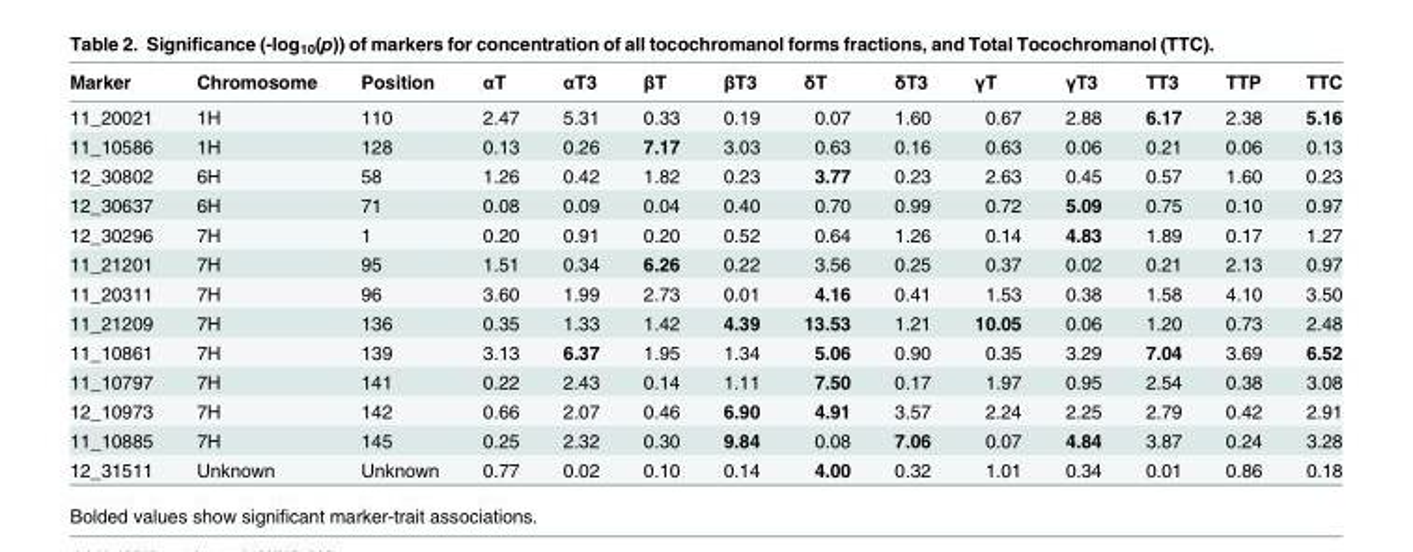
<table><thead><tr><td>Marker</td><td>Chromosome</td><td>Position</td><td>αT</td><td>αT3</td><td>βT</td><td>βT3</td><td>δT</td><td>δT3</td><td>γT</td><td>γT3</td><td>TT3</td><td>TTP</td><td>TTC</td></tr></thead><tbody><tr><td>11_20021</td><td>1H</td><td>110</td><td>2.47</td><td>5.31</td><td>0.33</td><td>0.19</td><td>0.07</td><td>1.60</td><td>0.67</td><td>2.88</td><td>6.17</td><td>2.38</td><td>5.16</td></tr><tr><td>11_10586</td><td>1H</td><td>128</td><td>0.13</td><td>0.26</td><td>7.17</td><td>3.03</td><td>0.63</td><td>0.16</td><td>0.63</td><td>0.06</td><td>0.21</td><td>0.06</td><td>0.13</td></tr><tr><td>12_30802</td><td>6H</td><td>58</td><td>1.26</td><td>0.42</td><td>1.82</td><td>0.23</td><td>3.77</td><td>0.23</td><td>2.63</td><td>0.45</td><td>0.57</td><td>1.60</td><td>0.23</td></tr><tr><td>12_30637</td><td>6H</td><td>71</td><td>0.08</td><td>0.09</td><td>0.04</td><td>0.40</td><td>0.70</td><td>0.99</td><td>0.72</td><td>5.09</td><td>0.75</td><td>0.10</td><td>0.97</td></tr><tr><td>12_30296</td><td>7H</td><td>1</td><td>0.20</td><td>0.91</td><td>0.20</td><td>0.52</td><td>0.64</td><td>1.26</td><td>0.14</td><td>4.83</td><td>1.89</td><td>0.17</td><td>1.27</td></tr><tr><td>11_21201</td><td>7H</td><td>95</td><td>1.51</td><td>0.34</td><td>6.26</td><td>0.22</td><td>3.56</td><td>0.25</td><td>0.37</td><td>0.02</td><td>0.21</td><td>2.13</td><td>0.97</td></tr><tr><td>11_20311</td><td>7H</td><td>96</td><td>3.60</td><td>1.99</td><td>2.73</td><td>0.01</td><td>4.16</td><td>0.41</td><td>1.53</td><td>0.38</td><td>1.58</td><td>4.10</td><td>3.50</td></tr><tr><td>11_21209</td><td>7H</td><td>136</td><td>0.35</td><td>1.33</td><td>1.42</td><td>4.39</td><td>13.53</td><td>1.21</td><td>10.05</td><td>0.06</td><td>1.20</td><td>0.73</td><td>2.48</td></tr><tr><td>11_10861</td><td>7H</td><td>139</td><td>3.13</td><td>6.37</td><td>1.95</td><td>1.34</td><td>5.06</td><td>0.90</td><td>0.35</td><td>3.29</td><td>7.04</td><td>3.69</td><td>6.52</td></tr><tr><td>11_10797</td><td>7H</td><td>141</td><td>0.22</td><td>2.43</td><td>0.14</td><td>1.11</td><td>7.50</td><td>0.17</td><td>1.97</td><td>0.95</td><td>2.54</td><td>0.38</td><td>3.08</td></tr><tr><td>12_10973</td><td>7H</td><td>142</td><td>0.66</td><td>2.07</td><td>0.46</td><td>6.90</td><td>4.91</td><td>3.57</td><td>2.24</td><td>2.25</td><td>2.79</td><td>0.42</td><td>2.91</td></tr><tr><td>11_10885</td><td>7H</td><td>145</td><td>0.25</td><td>2.32</td><td>0.30</td><td>9.84</td><td>0.08</td><td>7.06</td><td>0.07</td><td>4.84</td><td>3.87</td><td>0.24</td><td>3.28</td></tr><tr><td>12_31511</td><td>Unknown</td><td>Unknown</td><td>0.77</td><td>0.02</td><td>0.10</td><td>0.14</td><td>4.00</td><td>0.32</td><td>1.01</td><td>0.34</td><td>0.01</td><td>0.86</td><td>0.18</td></tr></tbody></table>